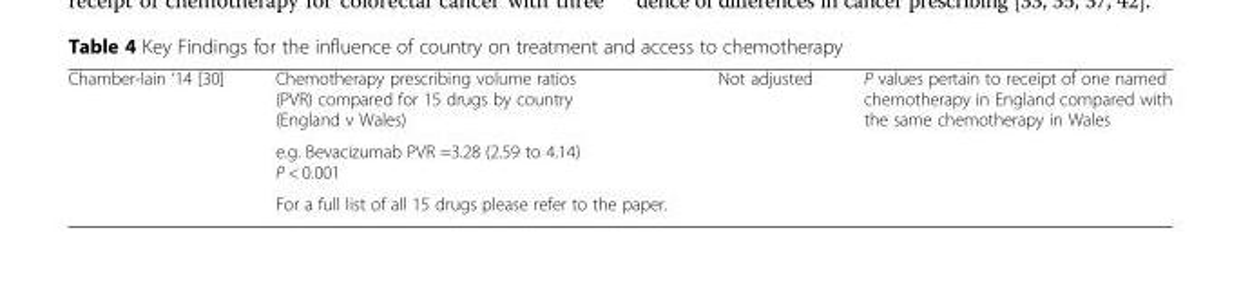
<table><tbody><tr><td rowspan="3">Chamber-lain ‘14 [30]</td><td>Chemotherapy prescribing volume ratios (PVR) compared for 15 drugs by country (England v Wales)</td><td rowspan="3">Not adjusted</td><td rowspan="3">P values pertain to receipt of one named chemotherapy in England compared with the same chemotherapy in Wales</td></tr><tr><td>e.g. Bevacizumab PVR =3.28 (2.59 to 4.14) P &lt; 0.001</td></tr><tr><td>For a full list of all 15 drugs please refer to the paper.</td></tr></tbody></table>